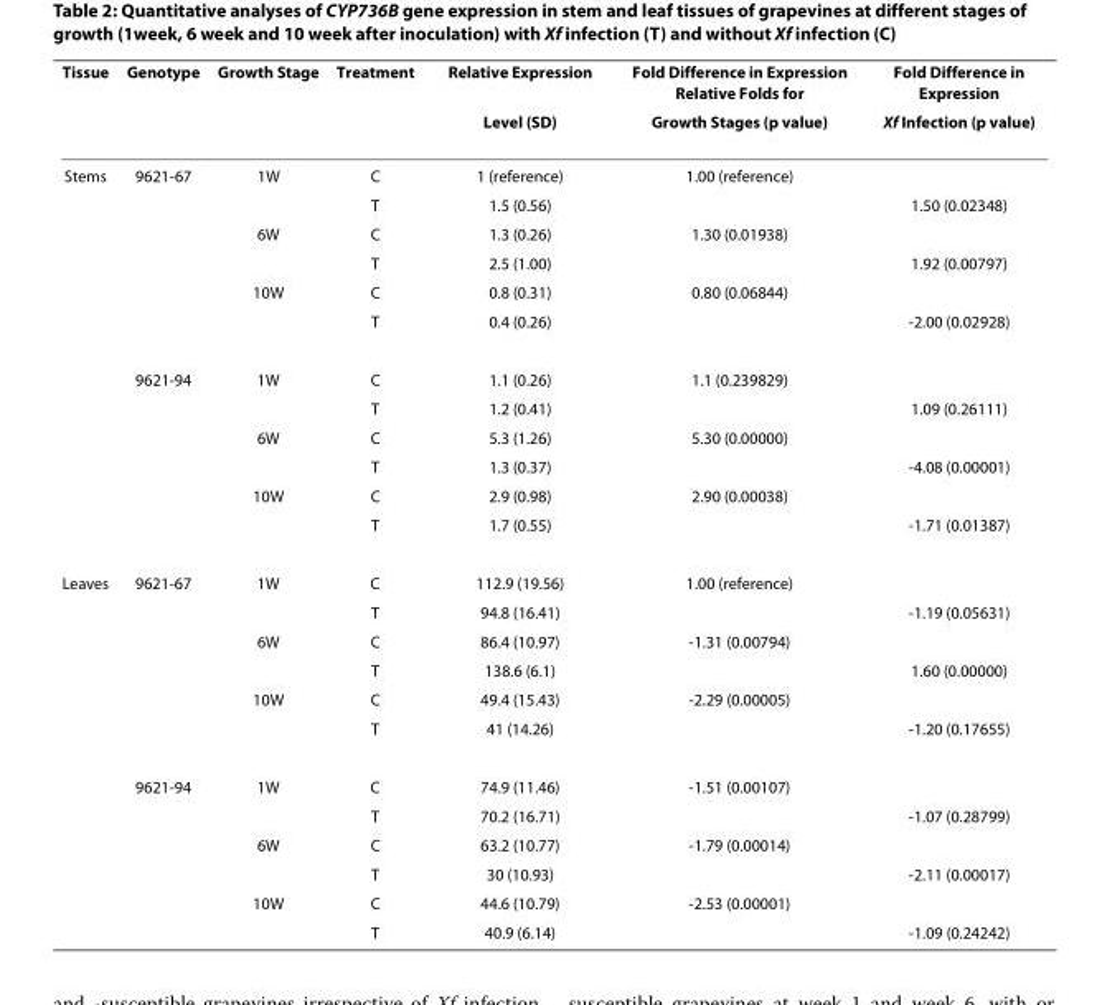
<table><thead><tr><td rowspan="2">Tissue</td><td rowspan="2">Genotype</td><td rowspan="2">Growth Stage</td><td rowspan="2">Treatment</td><td rowspan="2">Relative Expression Level (SD)</td><td rowspan="2">Fold Difference in Expression Relative Folds for Growth Stages (p value)</td><td rowspan="2">Fold Difference in Expression Xf Infection (p value)</td></tr><tr></tr></thead><tbody><tr><td rowspan="12">Stems</td><td>9621-67</td><td>1W</td><td>C</td><td>1 (reference)</td><td>1.00 (reference)</td><td></td></tr><tr><td></td><td></td><td>T</td><td>1.5 (0.56)</td><td></td><td>1.50 (0.02348)</td></tr><tr><td></td><td>6W</td><td>C</td><td>1.3 (0.26)</td><td>1.30 (0.01938)</td><td></td></tr><tr><td></td><td></td><td>T</td><td>2.5 (1.00)</td><td></td><td>1.92 (0.00797)</td></tr><tr><td></td><td>10W</td><td>C</td><td>0.8 (0.31)</td><td>0.80 (0.06844)</td><td></td></tr><tr><td></td><td></td><td>T</td><td>0.4 (0.26)</td><td></td><td>-2.00 (0.02928)</td></tr><tr><td>9621-94</td><td>1W</td><td>C</td><td>1.1 (0.26)</td><td>1.1 (0.239829)</td><td></td></tr><tr><td></td><td></td><td>T</td><td>1.2 (0.41)</td><td></td><td>1.09 (0.26111)</td></tr><tr><td></td><td>6W</td><td>C</td><td>5.3 (1.26)</td><td>5.30 (0.00000)</td><td></td></tr><tr><td></td><td></td><td>T</td><td>1.3 (0.37)</td><td></td><td>-4.08 (0.00001)</td></tr><tr><td></td><td>10W</td><td>C</td><td>2.9 (0.98)</td><td>2.90 (0.00038)</td><td></td></tr><tr><td></td><td></td><td>T</td><td>1.7 (0.55)</td><td></td><td>-1.71 (0.01387)</td></tr><tr><td rowspan="12">Leaves</td><td>9621-67</td><td>1W</td><td>C</td><td>112.9 (19.56)</td><td>1.00 (reference)</td><td></td></tr><tr><td></td><td></td><td>T</td><td>94.8 (16.41)</td><td></td><td>-1.19 (0.05631)</td></tr><tr><td></td><td>6W</td><td>C</td><td>86.4 (10.97)</td><td>-1.31 (0.00794)</td><td></td></tr><tr><td></td><td></td><td>T</td><td>138.6 (6.1)</td><td></td><td>1.60 (0.00000)</td></tr><tr><td></td><td>10W</td><td>C</td><td>49.4 (15.43)</td><td>-2.29 (0.00005)</td><td></td></tr><tr><td></td><td></td><td>T</td><td>41 (14.26)</td><td></td><td>-1.20 (0.17655)</td></tr><tr><td>9621-94</td><td>1W</td><td>C</td><td>74.9 (11.46)</td><td>-1.51 (0.00107)</td><td></td></tr><tr><td></td><td></td><td>T</td><td>70.2 (16.71)</td><td></td><td>-1.07 (0.28799)</td></tr><tr><td></td><td>6W</td><td>C</td><td>63.2 (10.77)</td><td>-1.79 (0.00014)</td><td></td></tr><tr><td></td><td></td><td>T</td><td>30 (10.93)</td><td></td><td>-2.11 (0.00017)</td></tr><tr><td></td><td>10W</td><td>C</td><td>44.6 (10.79)</td><td>-2.53 (0.00001)</td><td></td></tr><tr><td></td><td></td><td>T</td><td>40.9 (6.14)</td><td></td><td>-1.09 (0.24242)</td></tr></tbody></table>